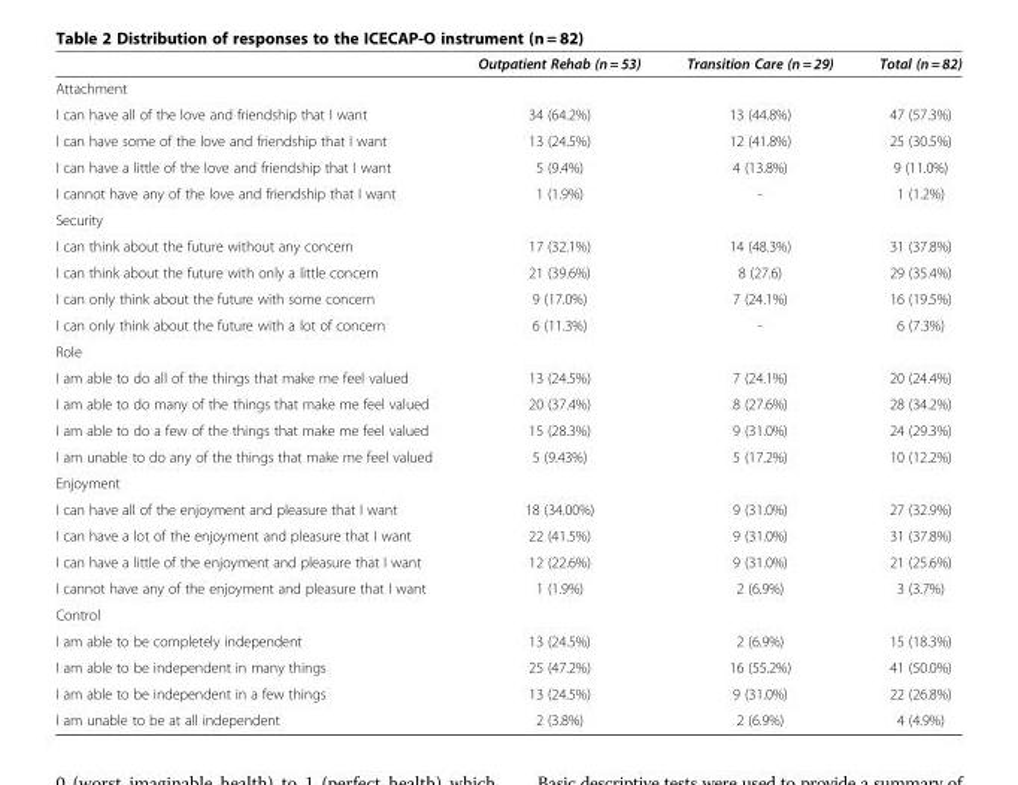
<table><thead><tr><td></td><td>Outpatient Rehab (n = 53)</td><td>Transition Care (n = 29)</td><td>Total (n = 82)</td></tr></thead><tbody><tr><td colspan="4">Attachment</td></tr><tr><td>I can have all of the love and friendship that I want</td><td>34 (64.2%)</td><td>13 (44.8%)</td><td>47 (57.3%)</td></tr><tr><td>I can have some of the love and friendship that I want</td><td>13 (24.5%)</td><td>12 (41.8%)</td><td>25 (30.5%)</td></tr><tr><td>I can have a little of the love and friendship that I want</td><td>5 (9.4%)</td><td>4 (13.8%)</td><td>9 (11.0%)</td></tr><tr><td>I cannot have any of the love and friendship that I want</td><td>1 (1.9%)</td><td>-</td><td>1 (1.2%)</td></tr><tr><td colspan="4">Security</td></tr><tr><td>I can think about the future without any concern</td><td>17 (32.1%)</td><td>14 (48.3%)</td><td>31 (37.8%)</td></tr><tr><td>I can think about the future with only a little concern</td><td>21 (39.6%)</td><td>8 (27.6)</td><td>29 (35.4%)</td></tr><tr><td>I can only think about the future with some concern</td><td>9 (17.0%)</td><td>7 (24.1%)</td><td>16 (19.5%)</td></tr><tr><td>I can only think about the future with a lot of concern</td><td>6 (11.3%)</td><td>-</td><td>6 (7.3%)</td></tr><tr><td colspan="4">Role</td></tr><tr><td>I am able to do all of the things that make me feel valued</td><td>13 (24.5%)</td><td>7 (24.1%)</td><td>20 (24.4%)</td></tr><tr><td>I am able to do many of the things that make me feel valued</td><td>20 (37.4%)</td><td>8 (27.6%)</td><td>28 (34.2%)</td></tr><tr><td>I am able to do a few of the things that make me feel valued</td><td>15 (28.3%)</td><td>9 (31.0%)</td><td>24 (29.3%)</td></tr><tr><td>I am unable to do any of the things that make me feel valued</td><td>5 (9.43%)</td><td>5 (17.2%)</td><td>10 (12.2%)</td></tr><tr><td colspan="4">Enjoyment</td></tr><tr><td>I can have all of the enjoyment and pleasure that I want</td><td>18 (34.00%)</td><td>9 (31.0%)</td><td>27 (32.9%)</td></tr><tr><td>I can have a lot of the enjoyment and pleasure that I want</td><td>22 (41.5%)</td><td>9 (31.0%)</td><td>31 (37.8%)</td></tr><tr><td>I can have a little of the enjoyment and pleasure that I want</td><td>12 (22.6%)</td><td>9 (31.0%)</td><td>21 (25.6%)</td></tr><tr><td>I cannot have any of the enjoyment and pleasure that I want</td><td>1 (1.9%)</td><td>2 (6.9%)</td><td>3 (3.7%)</td></tr><tr><td colspan="4">Control</td></tr><tr><td>I am able to be completely independent</td><td>13 (24.5%)</td><td>2 (6.9%)</td><td>15 (18.3%)</td></tr><tr><td>I am able to be independent in many things</td><td>25 (47.2%)</td><td>16 (55.2%)</td><td>41 (50.0%)</td></tr><tr><td>I am able to be independent in a few things</td><td>13 (24.5%)</td><td>9 (31.0%)</td><td>22 (26.8%)</td></tr><tr><td>I am unable to be at all independent</td><td>2 (3.8%)</td><td>2 (6.9%)</td><td>4 (4.9%)</td></tr></tbody></table>